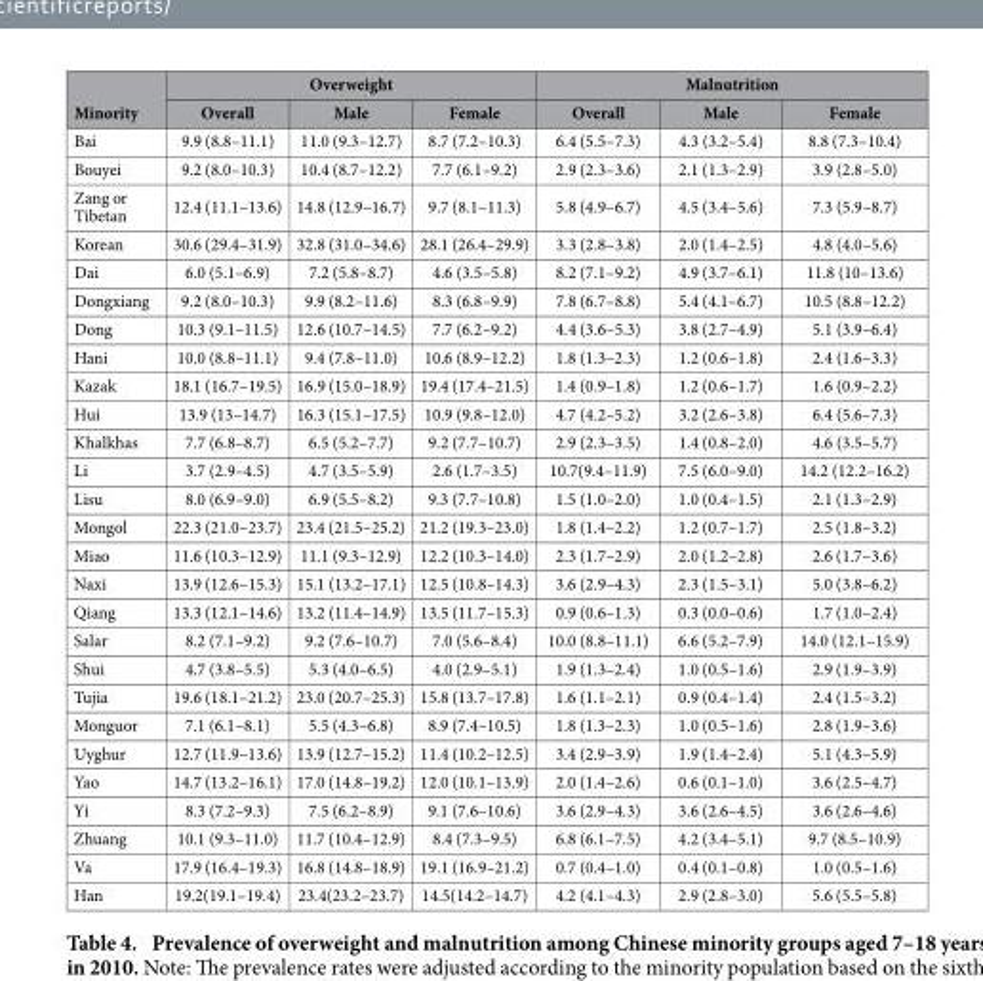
<table><thead><tr><td rowspan="2">Minority</td><td colspan="3">Overweight</td><td colspan="3">Malnutrition</td></tr><tr><td>Overall</td><td>Male</td><td>Female</td><td>Overall</td><td>Male</td><td>Female</td></tr></thead><tbody><tr><td>Bai</td><td>9.9 (8.8–11.1)</td><td>11.0 (9.3–12.7)</td><td>8.7 (7.2–10.3)</td><td>6.4 (5.5–7.3)</td><td>4.3 (3.2–5.4)</td><td>8.8 (7.3–10.4)</td></tr><tr><td>Bouyei</td><td>9.2 (8.0–10.3)</td><td>10.4 (8.7–12.2)</td><td>7.7 (6.1–9.2)</td><td>2.9 (2.3–3.6)</td><td>2.1 (1.3–2.9)</td><td>3.9 (2.8–5.0)</td></tr><tr><td>Zang or Tibetan</td><td>12.4 (11.1–13.6)</td><td>14.8 (12.9–16.7)</td><td>9.7 (8.1–11.3)</td><td>5.8 (4.9–6.7)</td><td>4.5 (3.4–5.6)</td><td>7.3 (5.9–8.7)</td></tr><tr><td>Korean</td><td>30.6 (29.4–31.9)</td><td>32.8 (31.0–34.6)</td><td>28.1 (26.4–29.9)</td><td>3.3 (2.8–3.8)</td><td>2.0 (1.4–2.5)</td><td>4.8 (4.0–5.6)</td></tr><tr><td>Dai</td><td>6.0 (5.1–6.9)</td><td>7.2 (5.8–8.7)</td><td>4.6 (3.5–5.8)</td><td>8.2 (7.1–9.2)</td><td>4.9 (3.7–6.1)</td><td>11.8 (10–13.6)</td></tr><tr><td>Dongxiang</td><td>9.2 (8.0–10.3)</td><td>9.9 (8.2–11.6)</td><td>8.3 (6.8–9.9)</td><td>7.8 (6.7–8.8)</td><td>5.4 (4.1–6.7)</td><td>10.5 (8.8–12.2)</td></tr><tr><td>Dong</td><td>10.3 (9.1–11.5)</td><td>12.6 (10.7–14.5)</td><td>7.7 (6.2–9.2)</td><td>4.4 (3.6–5.3)</td><td>3.8 (2.7–4.9)</td><td>5.1 (3.9–6.4)</td></tr><tr><td>Hani</td><td>10.0 (8.8–11.1)</td><td>9.4 (7.8–11.0)</td><td>10.6 (8.9–12.2)</td><td>1.8 (1.3–2.3)</td><td>1.2 (0.6–1.8)</td><td>2.4 (1.6–3.3)</td></tr><tr><td>Kazak</td><td>18.1 (16.7–19.5)</td><td>16.9 (15.0–18.9)</td><td>19.4 (17.4–21.5)</td><td>1.4 (0.9–1.8)</td><td>1.2 (0.6–1.7)</td><td>1.6 (0.9–2.2)</td></tr><tr><td>Hui</td><td>13.9 (13–14.7)</td><td>16.3 (15.1–17.5)</td><td>10.9 (9.8–12.0)</td><td>4.7 (4.2–5.2)</td><td>3.2 (2.6–3.8)</td><td>6.4 (5.6–7.3)</td></tr><tr><td>Khalkhas</td><td>7.7 (6.8–8.7)</td><td>6.5 (5.2–7.7)</td><td>9.2 (7.7–10.7)</td><td>2.9 (2.3–3.5)</td><td>1.4 (0.8–2.0)</td><td>4.6 (3.5–5.7)</td></tr><tr><td>Li</td><td>3.7 (2.9–4.5)</td><td>4.7 (3.5–5.9)</td><td>2.6 (1.7–3.5)</td><td>10.7(9.4–11.9)</td><td>7.5 (6.0–9.0)</td><td>14.2 (12.2–16.2)</td></tr><tr><td>Lisu</td><td>8.0 (6.9–9.0)</td><td>6.9 (5.5–8.2)</td><td>9.3 (7.7–10.8)</td><td>1.5 (1.0–2.0)</td><td>1.0 (0.4–1.5)</td><td>2.1 (1.3–2.9)</td></tr><tr><td>Mongol</td><td>22.3 (21.0–23.7)</td><td>23.4 (21.5–25.2)</td><td>21.2 (19.3–23.0)</td><td>1.8 (1.4–2.2)</td><td>1.2 (0.7–1.7)</td><td>2.5 (1.8–3.2)</td></tr><tr><td>Miao</td><td>11.6 (10.3–12.9)</td><td>11.1 (9.3–12.9)</td><td>12.2 (10.3–14.0)</td><td>2.3 (1.7–2.9)</td><td>2.0 (1.2–2.8)</td><td>2.6 (1.7–3.6)</td></tr><tr><td>Naxi</td><td>13.9 (12.6–15.3)</td><td>15.1 (13.2–17.1)</td><td>12.5 (10.8–14.3)</td><td>3.6 (2.9–4.3)</td><td>2.3 (1.5–3.1)</td><td>5.0 (3.8–6.2)</td></tr><tr><td>Qiang</td><td>13.3 (12.1–14.6)</td><td>13.2 (11.4–14.9)</td><td>13.5 (11.7–15.3)</td><td>0.9 (0.6–1.3)</td><td>0.3 (0.0–0.6)</td><td>1.7 (1.0–2.4)</td></tr><tr><td>Salar</td><td>8.2 (7.1–9.2)</td><td>9.2 (7.6–10.7)</td><td>7.0 (5.6–8.4)</td><td>10.0 (8.8–11.1)</td><td>6.6 (5.2–7.9)</td><td>14.0 (12.1–15.9)</td></tr><tr><td>Shui</td><td>4.7 (3.8–5.5)</td><td>5.3 (4.0–6.5)</td><td>4.0 (2.9–5.1)</td><td>1.9 (1.3–2.4)</td><td>1.0 (0.5–1.6)</td><td>2.9 (1.9–3.9)</td></tr><tr><td>Tujia</td><td>19.6 (18.1–21.2)</td><td>23.0 (20.7–25.3)</td><td>15.8 (13.7–17.8)</td><td>1.6 (1.1–2.1)</td><td>0.9 (0.4–1.4)</td><td>2.4 (1.5–3.2)</td></tr><tr><td>Monguor</td><td>7.1 (6.1–8.1)</td><td>5.5 (4.3–6.8)</td><td>8.9 (7.4–10.5)</td><td>1.8 (1.3–2.3)</td><td>1.0 (0.5–1.6)</td><td>2.8 (1.9–3.6)</td></tr><tr><td>Uyghur</td><td>12.7 (11.9–13.6)</td><td>13.9 (12.7–15.2)</td><td>11.4 (10.2–12.5)</td><td>3.4 (2.9–3.9)</td><td>1.9 (1.4–2.4)</td><td>5.1 (4.3–5.9)</td></tr><tr><td>Yao</td><td>14.7 (13.2–16.1)</td><td>17.0 (14.8–19.2)</td><td>12.0 (10.1–13.9)</td><td>2.0 (1.4–2.6)</td><td>0.6 (0.1–1.0)</td><td>3.6 (2.5–4.7)</td></tr><tr><td>Yi</td><td>8.3 (7.2–9.3)</td><td>7.5 (6.2–8.9)</td><td>9.1 (7.6–10.6)</td><td>3.6 (2.9–4.3)</td><td>3.6 (2.6–4.5)</td><td>3.6 (2.6–4.6)</td></tr><tr><td>Zhuang</td><td>10.1 (9.3–11.0)</td><td>11.7 (10.4–12.9)</td><td>8.4 (7.3–9.5)</td><td>6.8 (6.1–7.5)</td><td>4.2 (3.4–5.1)</td><td>9.7 (8.5–10.9)</td></tr><tr><td>Va</td><td>17.9 (16.4–19.3)</td><td>16.8 (14.8–18.9)</td><td>19.1 (16.9–21.2)</td><td>0.7 (0.4–1.0)</td><td>0.4 (0.1–0.8)</td><td>1.0 (0.5–1.6)</td></tr><tr><td>Han</td><td>19.2(19.1–19.4)</td><td>23.4(23.2–23.7)</td><td>14.5(14.2–14.7)</td><td>4.2 (4.1–4.3)</td><td>2.9 (2.8–3.0)</td><td>5.6 (5.5–5.8)</td></tr></tbody></table>